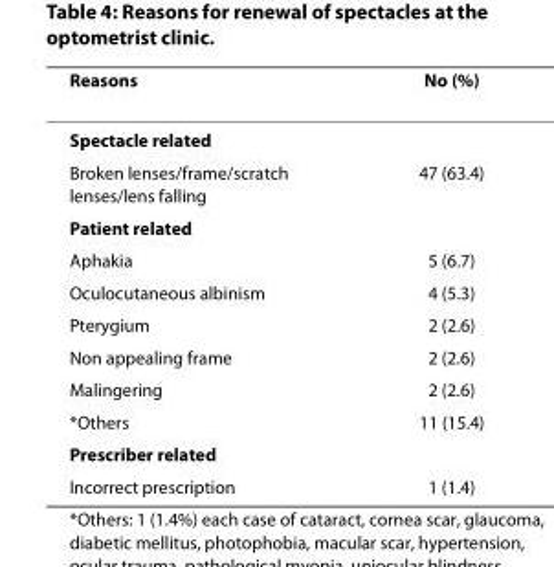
<table><thead><tr><td>Reasons</td><td>No (%)</td></tr></thead><tbody><tr><td colspan="2">Spectacle related</td></tr><tr><td>Broken lenses/frame/scratch lenses/lens falling</td><td>47 (63.4)</td></tr><tr><td colspan="2">Patient related</td></tr><tr><td>Aphakia</td><td>5 (6.7)</td></tr><tr><td>Oculocutaneous albinism</td><td>4 (5.3)</td></tr><tr><td>Pterygium</td><td>2 (2.6)</td></tr><tr><td>Non appealing frame</td><td>2 (2.6)</td></tr><tr><td>Malingering</td><td>2 (2.6)</td></tr><tr><td>*Others</td><td>11 (15.4)</td></tr><tr><td colspan="2">Prescriber related</td></tr><tr><td>Incorrect prescription</td><td>1 (1.4)</td></tr></tbody></table>